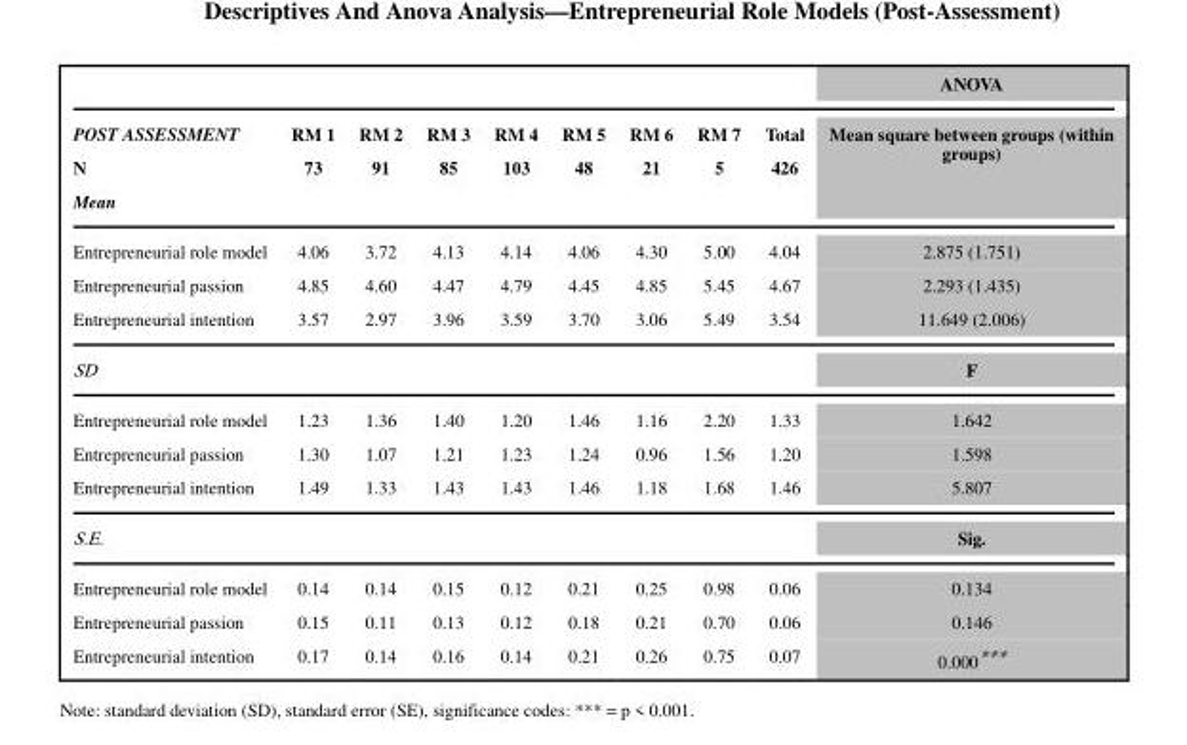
<table><thead><tr><td rowspan="3">POST ASSESSMENT N</td><td rowspan="3">RM 1 73</td><td rowspan="3">RM 2 91</td><td rowspan="3">RM 3 85</td><td rowspan="3">RM 4 103</td><td rowspan="3">RM 5 48</td><td rowspan="3">RM 6 21</td><td rowspan="3">RM 7 5</td><td rowspan="3">Total 426</td><td rowspan="4">ANOVA Mean square between groups (within groups)</td></tr><tr></tr><tr></tr><tr><td colspan="9">Mean</td></tr></thead><tbody><tr><td>Entrepreneurial role model</td><td>4.06</td><td>3.72</td><td>4.13</td><td>4.14</td><td>4.06</td><td>4.30</td><td>5.00</td><td>4.04</td><td>2.875 (1.751)</td></tr><tr><td>Entrepreneurial passion</td><td>4.85</td><td>4.60</td><td>4.47</td><td>4.79</td><td>4.45</td><td>4.85</td><td>5.45</td><td>4.67</td><td>2.293 (1.435)</td></tr><tr><td>Entrepreneurial intention</td><td>3.57</td><td>2.97</td><td>3.96</td><td>3.59</td><td>3.70</td><td>3.06</td><td>5.49</td><td>3.54</td><td>11.649 (2.006)</td></tr><tr><td colspan="9">SD</td><td>F</td></tr><tr><td>Entrepreneurial role model</td><td>1.23</td><td>1.36</td><td>1.40</td><td>1.20</td><td>1.46</td><td>1.16</td><td>2.20</td><td>1.33</td><td>1.642</td></tr><tr><td>Entrepreneurial passion</td><td>1.30</td><td>1.07</td><td>1.21</td><td>1.23</td><td>1.24</td><td>0.96</td><td>1.56</td><td>1.20</td><td>1.598</td></tr><tr><td>Entrepreneurial intention</td><td>1.49</td><td>1.33</td><td>1.43</td><td>1.43</td><td>1.46</td><td>1.18</td><td>1.68</td><td>1.46</td><td>5.807</td></tr><tr><td colspan="9">S.E.</td><td>Sig.</td></tr><tr><td>Entrepreneurial role model</td><td>0.14</td><td>0.14</td><td>0.15</td><td>0.12</td><td>0.21</td><td>0.25</td><td>0.98</td><td>0.06</td><td>0.134</td></tr><tr><td>Entrepreneurial passion</td><td>0.15</td><td>0.11</td><td>0.13</td><td>0.12</td><td>0.18</td><td>0.21</td><td>0.70</td><td>0.06</td><td>0.146</td></tr><tr><td>Entrepreneurial intention</td><td>0.17</td><td>0.14</td><td>0.16</td><td>0.14</td><td>0.21</td><td>0.26</td><td>0.75</td><td>0.07</td><td>0.000***</td></tr></tbody></table>